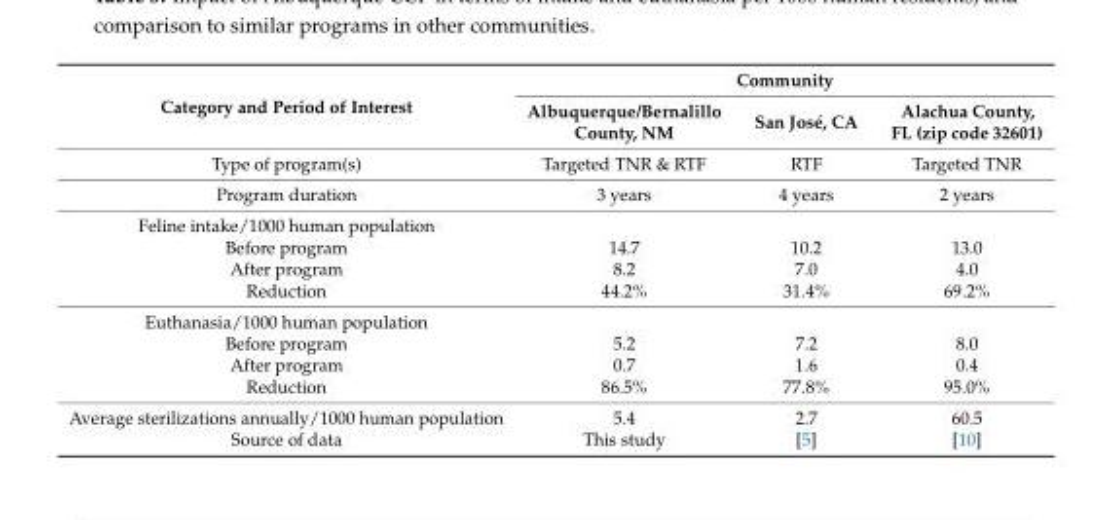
<table><thead><tr><td rowspan="2">Category and Period of Interest</td><td colspan="3">Community</td></tr><tr><td>Albuquerque/Bernalillo County, NM</td><td>San José, CA</td><td>Alachua County, FL (zip code 32601)</td></tr></thead><tbody><tr><td>Type of program(s)</td><td>Targeted TNR &amp; RTF</td><td>RTF</td><td>Targeted TNR</td></tr><tr><td>Program duration</td><td>3 years</td><td>4 years</td><td>2 years</td></tr><tr><td colspan="4">Feline intake/1000 human population</td></tr><tr><td>Before program</td><td>14.7</td><td>10.2</td><td>13.0</td></tr><tr><td>After program</td><td>8.2</td><td>7.0</td><td>4.0</td></tr><tr><td>Reduction</td><td>44.2%</td><td>31.4%</td><td>69.2%</td></tr><tr><td colspan="4">Euthanasia/1000 human population</td></tr><tr><td>Before program</td><td>5.2</td><td>7.2</td><td>8.0</td></tr><tr><td>After program</td><td>0.7</td><td>1.6</td><td>0.4</td></tr><tr><td>Reduction</td><td>86.5%</td><td>77.8%</td><td>95.0%</td></tr><tr><td>Average sterilizations annually/1000 human population</td><td>5.4</td><td>2.7</td><td>60.5</td></tr><tr><td>Source of data</td><td>This study</td><td>[5]</td><td>[10]</td></tr></tbody></table>